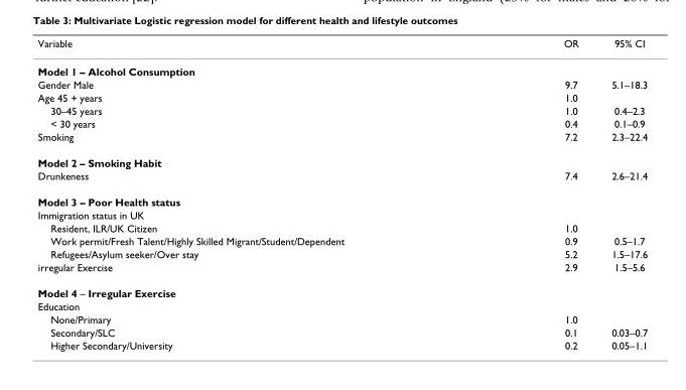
<table><thead><tr><td>Variable</td><td>OR</td><td>95% CI</td></tr></thead><tbody><tr><td colspan="3">Model 1 – Alcohol Consumption</td></tr><tr><td>Gender Male</td><td>9.7</td><td>5.1–18.3</td></tr><tr><td>Age 45 + years</td><td>1.0</td><td></td></tr><tr><td>30–45 years</td><td>1.0</td><td>0.4–2.3</td></tr><tr><td>&lt; 30 years</td><td>0.4</td><td>0.1–0.9</td></tr><tr><td>Smoking</td><td>7.2</td><td>2.3–22.4</td></tr><tr><td colspan="3">Model 2 – Smoking Habit</td></tr><tr><td>Drunkeness</td><td>7.4</td><td>2.6–21.4</td></tr><tr><td colspan="3">Model 3 – Poor Health status</td></tr><tr><td colspan="3">Immigration status in UK</td></tr><tr><td>Resident, ILR/UK Citizen</td><td>1.0</td><td></td></tr><tr><td>Work permit/Fresh Talent/Highly Skilled Migrant/Student/Dependent</td><td>0.9</td><td>0.5–1.7</td></tr><tr><td>Refugees/Asylum seeker/Over stay</td><td>5.2</td><td>1.5–17.6</td></tr><tr><td>irregular Exercise</td><td>2.9</td><td>1.5–5.6</td></tr><tr><td colspan="3">Model 4 – Irregular Exercise</td></tr><tr><td colspan="3">Education</td></tr><tr><td>None/Primary</td><td>1.0</td><td></td></tr><tr><td>Secondary/SLC</td><td>0.1</td><td>0.03–0.7</td></tr><tr><td>Higher Secondary/University</td><td>0.2</td><td>0.05–1.1</td></tr></tbody></table>